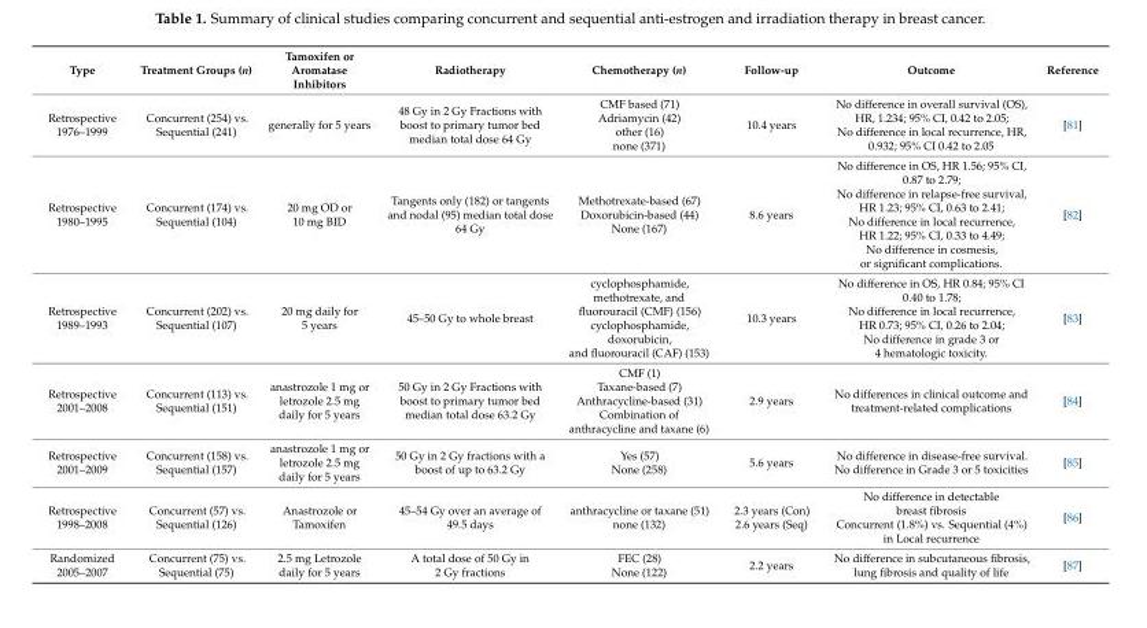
<table><thead><tr><td>Type</td><td>Treatment Groups (n)</td><td>Tamoxifen or Aromatase Inhibitors</td><td>Radiotherapy</td><td>Chemotherapy (n)</td><td>Follow-up</td><td>Outcome</td><td>Reference</td></tr></thead><tbody><tr><td>Retrospective 1976–1999</td><td>Concurrent (254) vs. Sequential (241)</td><td>generally for 5 years</td><td>48 Gy in 2 Gy Fractions with boost to primary tumor bed median total dose 64 Gy</td><td>CMF based (71) Adriamycin (42) other (16) none (371)</td><td>10.4 years</td><td>No difference in overall survival (OS), HR, 1.234; 95% CI, 0.42 to 2.05; No difference in local recurrence, HR, 0.932; 95% CI 0.42 to 2.05</td><td>[81]</td></tr><tr><td>Retrospective 1980–1995</td><td>Concurrent (174) vs. Sequential (104)</td><td>20 mg OD or 10 mg BID</td><td>Tangents only (182) or tangents and nodal (95) median total dose 64 Gy</td><td>Methotrexate-based (67) Doxorubicin-based (44) None (167)</td><td>8.6 years</td><td>No difference in OS, HR 1.56; 95% CI, 0.87 to 2.79; No difference in relapse-free survival, HR 1.23; 95% CI, 0.63 to 2.41; No difference in local recurrence, HR 1.22; 95% CI, 0.33 to 4.49; No difference in cosmesis, or significant complications.</td><td>[82]</td></tr><tr><td>Retrospective 1989–1993</td><td>Concurrent (202) vs. Sequential (107)</td><td>20 mg daily for 5 years</td><td>45–50 Gy to whole breast</td><td>cyclophosphamide, methotrexate, and fluorouracil (CMF) (156) cyclophosphamide, doxorubicin, and fluorouracil (CAF) (153)</td><td>10.3 years</td><td>No difference in OS, HR 0.84; 95% CI 0.40 to 1.78; No difference in local recurrence, HR 0.73; 95% CI, 0.26 to 2.04; No difference in grade 3 or 4 hematologic toxicity.</td><td>[83]</td></tr><tr><td>Retrospective 2001–2008</td><td>Concurrent (113) vs. Sequential (151)</td><td>anastrozole 1 mg or letrozole 2.5 mg daily for 5 years</td><td>50 Gy in 2 Gy Fractions with boost to primary tumor bed median total dose 63.2 Gy</td><td>CMF (1) Taxane-based (7) Anthracycline-based (31) Combination of anthracycline and taxane (6)</td><td>2.9 years</td><td>No differences in clinical outcome and treatment-related complications</td><td>[84]</td></tr><tr><td>Retrospective 2001–2009</td><td>Concurrent (158) vs. Sequential (157)</td><td>anastrozole 1 mg or letrozole 2.5 mg daily for 5 years</td><td>50 Gy in 2 Gy fractions with a boost of up to 63.2 Gy</td><td>Yes (57) None (258)</td><td>5.6 years</td><td>No difference in disease-free survival. No difference in Grade 3 or 5 toxicities</td><td>[85]</td></tr><tr><td>Retrospective 1998–2008</td><td>Concurrent (57) vs. Sequential (126)</td><td>Anastrozole or Tamoxifen</td><td>45–54 Gy over an average of 49.5 days</td><td>anthracycline or taxane (51) none (132)</td><td>2.3 years (Con) 2.6 years (Seq)</td><td>No difference in detectable breast fibrosis Concurrent (1.8%) vs. Sequential (4%) in Local recurrence</td><td>[86]</td></tr><tr><td>Randomized 2005–2007</td><td>Concurrent (75) vs. Sequential (75)</td><td>2.5 mg Letrozole daily for 5 years</td><td>A total dose of 50 Gy in 2 Gy fractions</td><td>FEC (28) None (122)</td><td>2.2 years</td><td>No difference in subcutaneous fibrosis, lung fibrosis and quality of life</td><td>[87]</td></tr></tbody></table>